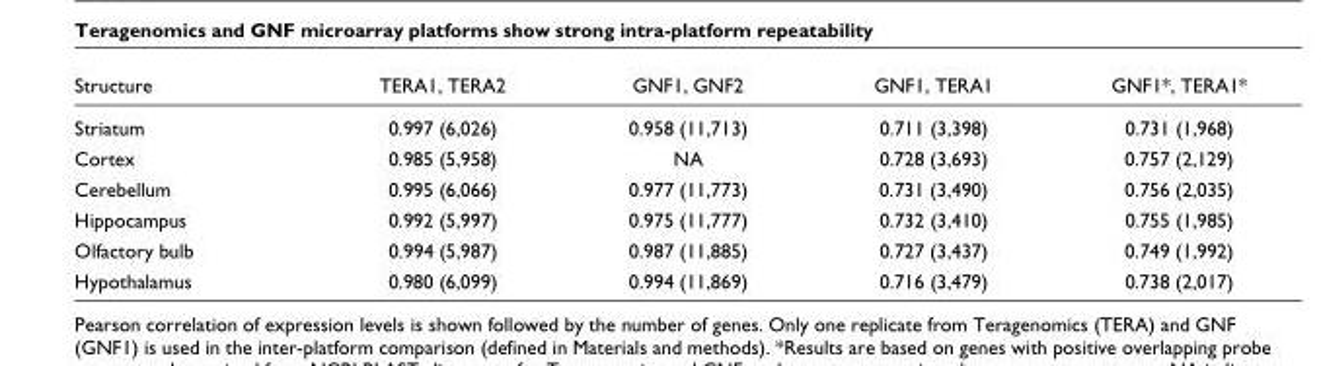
<table><thead><tr><td>Structure</td><td>TERA1, TERA2</td><td>GNF1, GNF2</td><td>GNF1, TERA1</td><td>GNF1*, TERA1*</td></tr></thead><tbody><tr><td>Striatum</td><td>0.997 (6,026)</td><td>0.958 (11,713)</td><td>0.711 (3,398)</td><td>0.731 (1,968)</td></tr><tr><td>Cortex</td><td>0.985 (5,958)</td><td>NA</td><td>0.728 (3,693)</td><td>0.757 (2,129)</td></tr><tr><td>Cerebellum</td><td>0.995 (6,066)</td><td>0.977 (11,773)</td><td>0.731 (3,490)</td><td>0.756 (2,035)</td></tr><tr><td>Hippocampus</td><td>0.992 (5,997)</td><td>0.975 (11,777)</td><td>0.732 (3,410)</td><td>0.755 (1,985)</td></tr><tr><td>Olfactory bulb</td><td>0.994 (5,987)</td><td>0.987 (11,885)</td><td>0.727 (3,437)</td><td>0.749 (1,992)</td></tr><tr><td>Hypothalamus</td><td>0.980 (6,099)</td><td>0.994 (11,869)</td><td>0.716 (3,479)</td><td>0.738 (2,017)</td></tr></tbody></table>